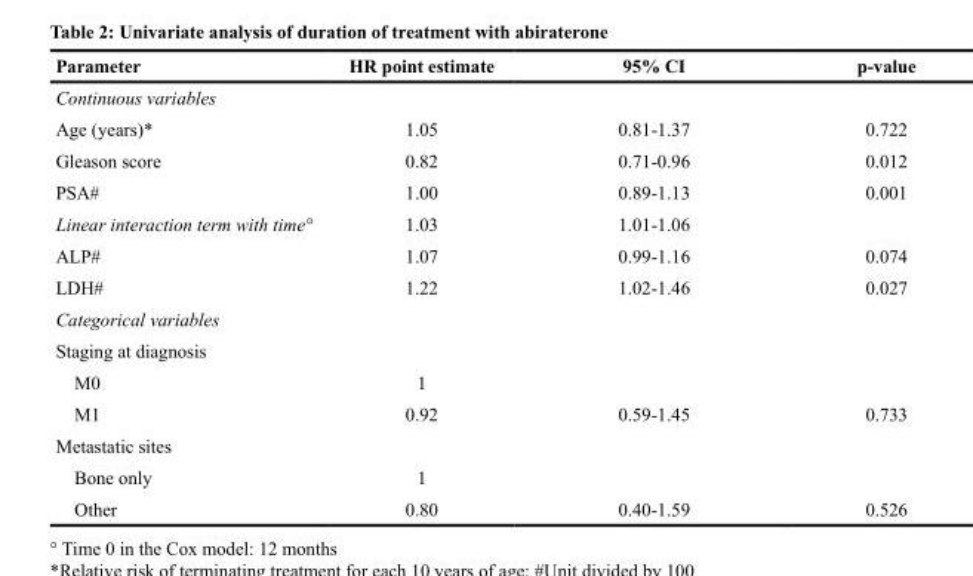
<table><thead><tr><td>Parameter</td><td>HR point estimate</td><td>95% CI</td><td>p-value</td></tr></thead><tbody><tr><td colspan="4">Continuous variables</td></tr><tr><td>Age (years)*</td><td>1.05</td><td>0.81-1.37</td><td>0.722</td></tr><tr><td>Gleason score</td><td>0.82</td><td>0.71-0.96</td><td>0.012</td></tr><tr><td>PSA<sup>#</sup></td><td>1.00</td><td>0.89-1.13</td><td>0.001</td></tr><tr><td>Linear interaction term with time°</td><td>1.03</td><td>1.01-1.06</td><td></td></tr><tr><td>ALP<sup>#</sup></td><td>1.07</td><td>0.99-1.16</td><td>0.074</td></tr><tr><td>LDH<sup>#</sup></td><td>1.22</td><td>1.02-1.46</td><td>0.027</td></tr><tr><td colspan="4">Categorical variables</td></tr><tr><td colspan="4">Staging at diagnosis</td></tr><tr><td>M0</td><td>1</td><td></td><td></td></tr><tr><td>M1</td><td>0.92</td><td>0.59-1.45</td><td>0.733</td></tr><tr><td colspan="4">Metastatic sites</td></tr><tr><td>Bone only</td><td>1</td><td></td><td></td></tr><tr><td>Other</td><td>0.80</td><td>0.40-1.59</td><td>0.526</td></tr></tbody></table>